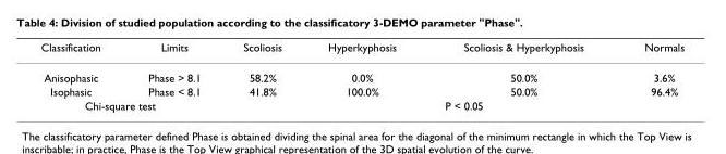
<table><thead><tr><td>Classification</td><td>Limits</td><td>Scoliosis</td><td>Hyperkyphosis</td><td>Scoliosis &amp; Hyperkyphosis</td><td>Normals</td></tr></thead><tbody><tr><td>Anisophasic</td><td>Phase &gt; 8.1</td><td>58.2%</td><td>0.0%</td><td>50.0%</td><td>3.6%</td></tr><tr><td>Isophasic</td><td>Phase &lt; 8.1</td><td>41.8%</td><td>100.0%</td><td>50.0%</td><td>96.4%</td></tr><tr><td colspan="2">Chi-square test</td><td colspan="4">P &lt; 0.05</td></tr></tbody></table>